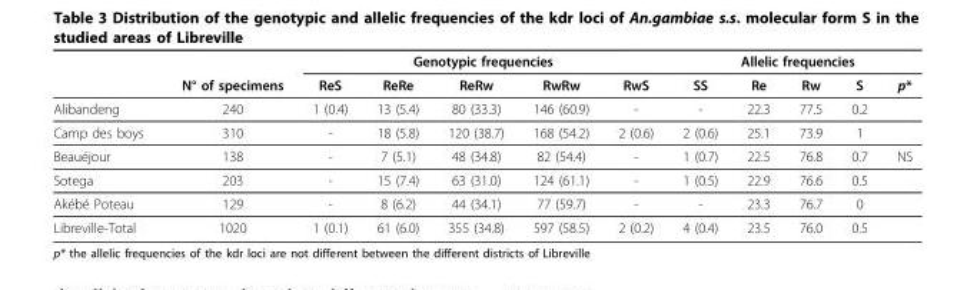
<table><thead><tr><td rowspan="2"></td><td rowspan="2">N° of specimens</td><td colspan="5">Genotypic frequencies</td><td colspan="5">Allelic frequencies</td></tr><tr><td>ReS</td><td>ReRe</td><td>ReRw</td><td>RwRw</td><td>RwS</td><td>SS</td><td>Re</td><td>Rw</td><td>S</td><td>p*</td></tr></thead><tbody><tr><td>Alibandeng</td><td>240</td><td>1 (0.4)</td><td>13 (5.4)</td><td>80 (33.3)</td><td>146 (60.9)</td><td>-</td><td>-</td><td>22.3</td><td>77.5</td><td>0.2</td><td></td></tr><tr><td>Camp des boys</td><td>310</td><td>-</td><td>18 (5.8)</td><td>120 (38.7)</td><td>168 (54.2)</td><td>2 (0.6)</td><td>2 (0.6)</td><td>25.1</td><td>73.9</td><td>1</td><td></td></tr><tr><td>Beauéjour</td><td>138</td><td>-</td><td>7 (5.1)</td><td>48 (34.8)</td><td>82 (54.4)</td><td>-</td><td>1 (0.7)</td><td>22.5</td><td>76.8</td><td>0.7</td><td>NS</td></tr><tr><td>Sotega</td><td>203</td><td>-</td><td>15 (7.4)</td><td>63 (31.0)</td><td>124 (61.1)</td><td>-</td><td>1 (0.5)</td><td>22.9</td><td>76.6</td><td>0.5</td><td></td></tr><tr><td>Akébé Poteau</td><td>129</td><td>-</td><td>8 (6.2)</td><td>44 (34.1)</td><td>77 (59.7)</td><td>-</td><td>-</td><td>23.3</td><td>76.7</td><td>0</td><td></td></tr><tr><td>Libreville-Total</td><td>1020</td><td>1 (0.1)</td><td>61 (6.0)</td><td>355 (34.8)</td><td>597 (58.5)</td><td>2 (0.2)</td><td>4 (0.4)</td><td>23.5</td><td>76.0</td><td>0.5</td><td></td></tr></tbody></table>